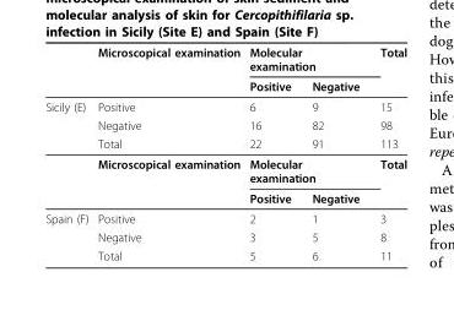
<table><thead><tr><td rowspan="2"></td><td rowspan="2">Microscopical examination</td><td colspan="2">Molecular examination</td><td rowspan="2">Total</td></tr><tr><td>Positive</td><td>Negative</td></tr></thead><tbody><tr><td rowspan="5">Sicily (E)</td><td>Positive</td><td>6</td><td>9</td><td>15</td></tr><tr><td>Negative</td><td>16</td><td>82</td><td>98</td></tr><tr><td>Total</td><td>22</td><td>91</td><td>113</td></tr><tr><td>Microscopical examination</td><td colspan="2">Molecular examination</td><td>Total</td></tr><tr><td></td><td>Positive</td><td>Negative</td><td></td></tr><tr><td rowspan="3">Spain (F)</td><td>Positive</td><td>2</td><td>1</td><td>3</td></tr><tr><td>Negative</td><td>3</td><td>5</td><td>8</td></tr><tr><td>Total</td><td>5</td><td>6</td><td>11</td></tr></tbody></table>